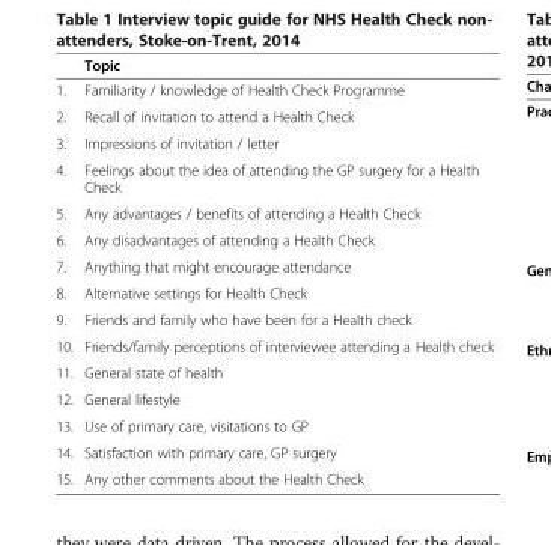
<table><thead><tr><td></td><td>Topic</td></tr></thead><tbody><tr><td>1.</td><td>Familiarity / knowledge of Health Check Programme</td></tr><tr><td>2.</td><td>Recall of invitation to attend a Health Check</td></tr><tr><td>3.</td><td>Impressions of invitation / letter</td></tr><tr><td>4.</td><td>Feelings about the idea of attending the GP surgery for a Health Check</td></tr><tr><td>5.</td><td>Any advantages / benefits of attending a Health Check</td></tr><tr><td>6.</td><td>Any disadvantages of attending a Health Check</td></tr><tr><td>7.</td><td>Anything that might encourage attendance</td></tr><tr><td>8.</td><td>Alternative settings for Health Check</td></tr><tr><td>9.</td><td>Friends and family who have been for a Health check</td></tr><tr><td>10.</td><td>Friends/family perceptions of interviewee attending a Health check</td></tr><tr><td>11.</td><td>General state of health</td></tr><tr><td>12.</td><td>General lifestyle</td></tr><tr><td>13.</td><td>Use of primary care, visitations to GP</td></tr><tr><td>14.</td><td>Satisfaction with primary care, GP surgery</td></tr><tr><td>15.</td><td>Any other comments about the Health Check</td></tr></tbody></table>